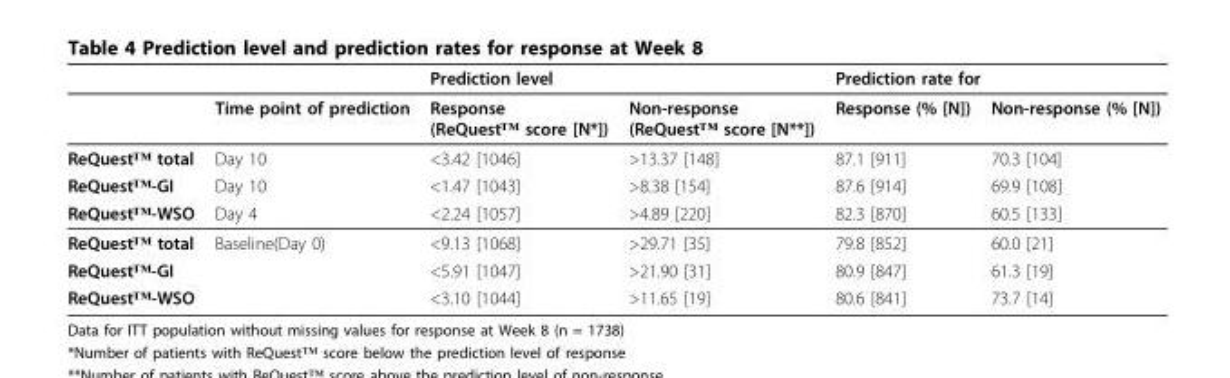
<table><thead><tr><td rowspan="2"></td><td rowspan="2">Time point of prediction</td><td colspan="2">Prediction level</td><td colspan="2">Prediction rate for</td></tr><tr><td>Response (ReQuest™ score [N*])</td><td>Non-response (ReQuest™ score [N**])</td><td>Response (% [N])</td><td>Non-response (% [N])</td></tr></thead><tbody><tr><td>ReQuest™ total</td><td>Day 10</td><td>&lt;3.42 [1046]</td><td>&gt;13.37 [148]</td><td>87.1 [911]</td><td>70.3 [104]</td></tr><tr><td>ReQuest™-GI</td><td>Day 10</td><td>&lt;1.47 [1043]</td><td>&gt;8.38 [154]</td><td>87.6 [914]</td><td>69.9 [108]</td></tr><tr><td>ReQuest™-WSO</td><td>Day 4</td><td>&lt;2.24 [1057]</td><td>&gt;4.89 [220]</td><td>82.3 [870]</td><td>60.5 [133]</td></tr><tr><td>ReQuest™ total</td><td>Baseline(Day 0)</td><td>&lt;9.13 [1068]</td><td>&gt;29.71 [35]</td><td>79.8 [852]</td><td>60.0 [21]</td></tr><tr><td>ReQuest™-GI</td><td></td><td>&lt;5.91 [1047]</td><td>&gt;21.90 [31]</td><td>80.9 [847]</td><td>61.3 [19]</td></tr><tr><td>ReQuest™-WSO</td><td></td><td>&lt;3.10 [1044]</td><td>&gt;11.65 [19]</td><td>80.6 [841]</td><td>73.7 [14]</td></tr></tbody></table>